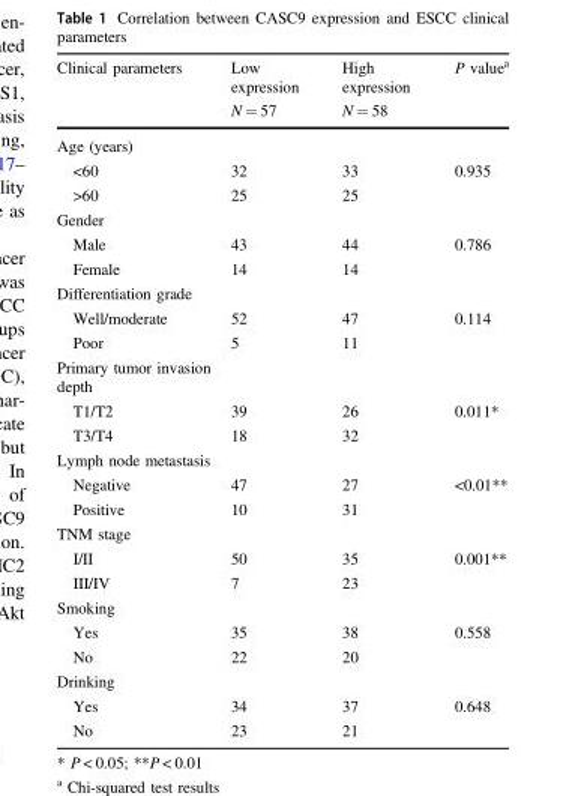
<table><thead><tr><td rowspan="2">Clinical parameters</td><td rowspan="2">Low expression N = 57</td><td rowspan="2">High expression N = 58</td><td rowspan="2">P value<sup>a</sup></td></tr><tr></tr></thead><tbody><tr><td colspan="4">Age (years)</td></tr><tr><td>&lt;60</td><td>32</td><td>33</td><td rowspan="2">0.935</td></tr><tr><td>&gt;60</td><td>25</td><td>25</td></tr><tr><td colspan="4">Gender</td></tr><tr><td>Male</td><td>43</td><td>44</td><td rowspan="2">0.786</td></tr><tr><td>Female</td><td>14</td><td>14</td></tr><tr><td colspan="4">Differentiation grade</td></tr><tr><td>Well/moderate</td><td>52</td><td>47</td><td rowspan="2">0.114</td></tr><tr><td>Poor</td><td>5</td><td>11</td></tr><tr><td colspan="4">Primary tumor invasion depth</td></tr><tr><td>T1/T2</td><td>39</td><td>26</td><td rowspan="2">0.011*</td></tr><tr><td>T3/T4</td><td>18</td><td>32</td></tr><tr><td colspan="4">Lymph node metastasis</td></tr><tr><td>Negative</td><td>47</td><td>27</td><td rowspan="2">&lt;0.01**</td></tr><tr><td>Positive</td><td>10</td><td>31</td></tr><tr><td colspan="4">TNM stage</td></tr><tr><td>I/II</td><td>50</td><td>35</td><td rowspan="2">0.001**</td></tr><tr><td>III/IV</td><td>7</td><td>23</td></tr><tr><td colspan="4">Smoking</td></tr><tr><td>Yes</td><td>35</td><td>38</td><td rowspan="2">0.558</td></tr><tr><td>No</td><td>22</td><td>20</td></tr><tr><td colspan="4">Drinking</td></tr><tr><td>Yes</td><td>34</td><td>37</td><td rowspan="2">0.648</td></tr><tr><td>No</td><td>23</td><td>21</td></tr></tbody></table>